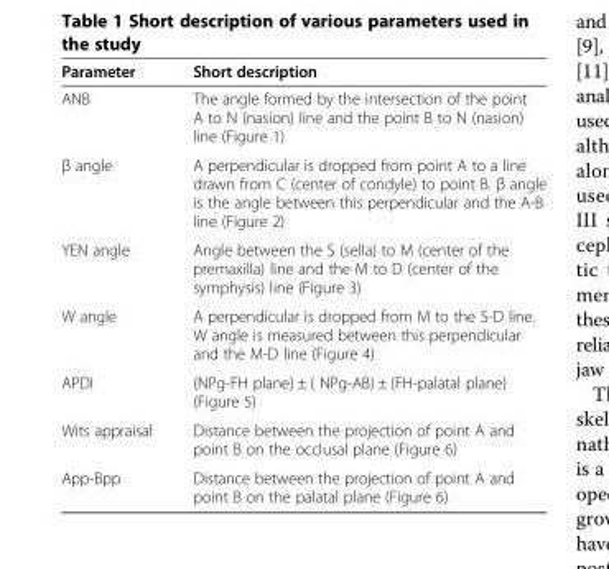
<table><thead><tr><td>Parameter</td><td>Short description</td></tr></thead><tbody><tr><td>ANB</td><td>The angle formed by the intersection of the point A to N (nasion) line and the point B to N (nasion) line (Figure 1)</td></tr><tr><td>β angle</td><td>A perpendicular is dropped from point A to a line drawn from C (center of condyle) to point B. β angle is the angle between this perpendicular and the A-B line (Figure 2)</td></tr><tr><td>YEN angle</td><td>Angle between the S (sella) to M (center of the premaxilla) line and the M to D (center of the symphysis) line (Figure 3)</td></tr><tr><td>W angle</td><td>A perpendicular is dropped from M to the S-D line. W angle is measured between this perpendicular and the M-D line (Figure 4)</td></tr><tr><td>APDI</td><td>(NPg-FH plane) ± ( NPg-AB) ± (FH-palatal plane) (Figure 5)</td></tr><tr><td>Wits appraisal</td><td>Distance between the projection of point A and point B on the occlusal plane (Figure 6)</td></tr><tr><td>App-Bpp</td><td>Distance between the projection of point A and point B on the palatal plane (Figure 6)</td></tr></tbody></table>